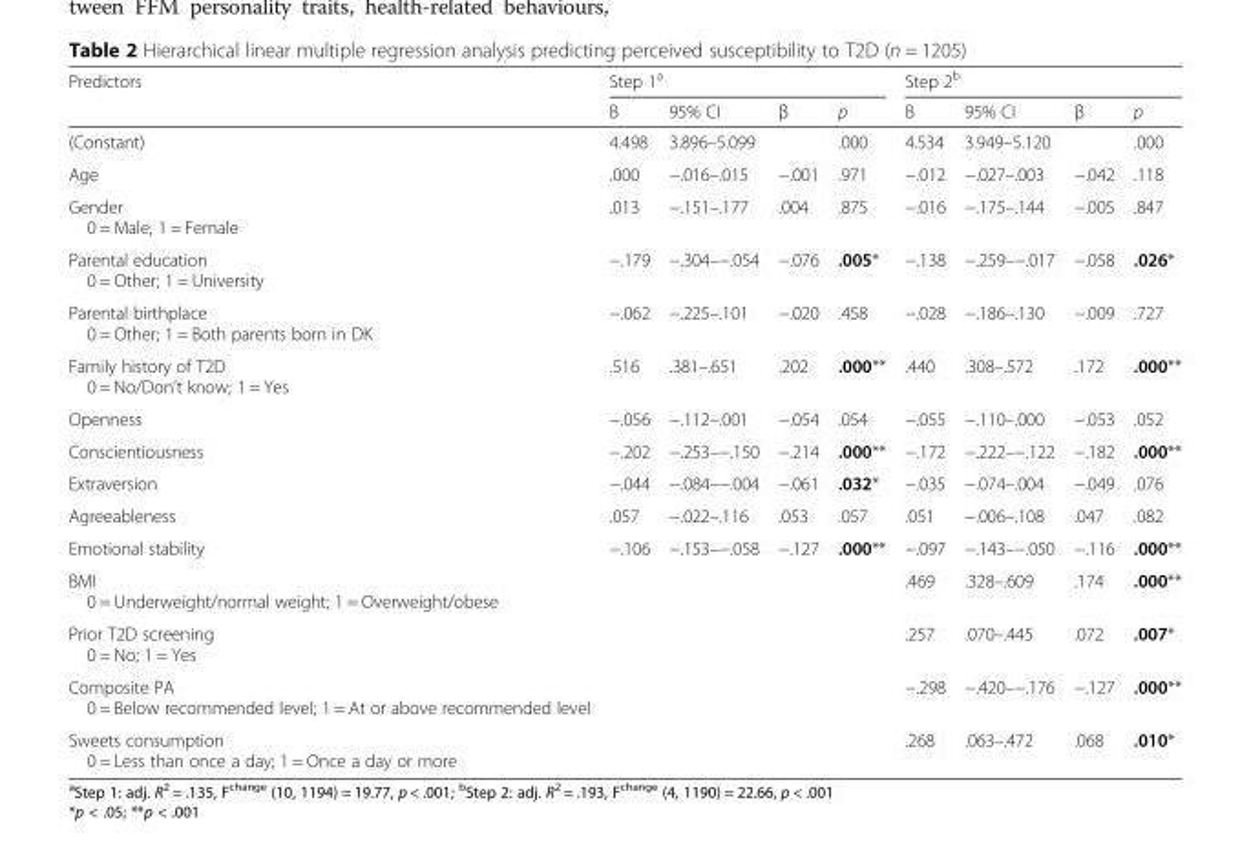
<table><thead><tr><td rowspan="2">Predictors</td><td colspan="4">Step 1<sup>a</sup></td><td colspan="4">Step 2<sup>b</sup></td></tr><tr><td>B</td><td>95% CI</td><td>β</td><td>p</td><td>B</td><td>95% CI</td><td>β</td><td>p</td></tr></thead><tbody><tr><td>(Constant)</td><td>4.498</td><td>3.896–5.099</td><td></td><td>.000</td><td>4.534</td><td>3.949–5.120</td><td></td><td>.000</td></tr><tr><td>Age</td><td>.000</td><td>−.016–.015</td><td>−.001</td><td>.971</td><td>−.012</td><td>−.027–.003</td><td>−.042</td><td>.118</td></tr><tr><td>Gender 0 = Male; 1 = Female</td><td>.013</td><td>−.151–.177</td><td>.004</td><td>.875</td><td>−.016</td><td>−.175–.144</td><td>−.005</td><td>.847</td></tr><tr><td>Parental education 0 = Other; 1 = University</td><td>−.179</td><td>−.304–−.054</td><td>−.076</td><td>.005*</td><td>−.138</td><td>−.259–−.017</td><td>−.058</td><td>.026*</td></tr><tr><td>Parental birthplace 0 = Other; 1 = Both parents born in DK</td><td>−.062</td><td>−.225–.101</td><td>−.020</td><td>.458</td><td>−.028</td><td>−.186–.130</td><td>−.009</td><td>.727</td></tr><tr><td>Family history of T2D 0 = No/Don’t know; 1 = Yes</td><td>.516</td><td>.381–.651</td><td>.202</td><td>.000**</td><td>.440</td><td>.308–.572</td><td>.172</td><td>.000**</td></tr><tr><td>Openness</td><td>−.056</td><td>−.112–.001</td><td>−.054</td><td>.054</td><td>−.055</td><td>−.110–.000</td><td>−.053</td><td>.052</td></tr><tr><td>Conscientiousness</td><td>−.202</td><td>−.253–−.150</td><td>−.214</td><td>.000**</td><td>−.172</td><td>−.222–−.122</td><td>−.182</td><td>.000**</td></tr><tr><td>Extraversion</td><td>−.044</td><td>−.084–−.004</td><td>−.061</td><td>.032*</td><td>−.035</td><td>−.074–.004</td><td>−.049</td><td>.076</td></tr><tr><td>Agreeableness</td><td>.057</td><td>−.022–.116</td><td>.053</td><td>.057</td><td>.051</td><td>−.006–.108</td><td>.047</td><td>.082</td></tr><tr><td>Emotional stability</td><td>−.106</td><td>−.153–−.058</td><td>−.127</td><td>.000**</td><td>−.097</td><td>−.143–−.050</td><td>−.116</td><td>.000**</td></tr><tr><td>BMI 0 = Underweight/normal weight; 1 = Overweight/obese</td><td></td><td></td><td></td><td></td><td>.469</td><td>.328–.609</td><td>.174</td><td>.000**</td></tr><tr><td>Prior T2D screening 0 = No; 1 = Yes</td><td></td><td></td><td></td><td></td><td>.257</td><td>.070–.445</td><td>.072</td><td>.007*</td></tr><tr><td>Composite PA 0 = Below recommended level; 1 = At or above recommended level</td><td></td><td></td><td></td><td></td><td>−.298</td><td>−.420–−.176</td><td>−.127</td><td>.000**</td></tr><tr><td>Sweets consumption 0 = Less than once a day; 1 = Once a day or more</td><td></td><td></td><td></td><td></td><td>.268</td><td>.063–.472</td><td>.068</td><td>.010*</td></tr></tbody></table>